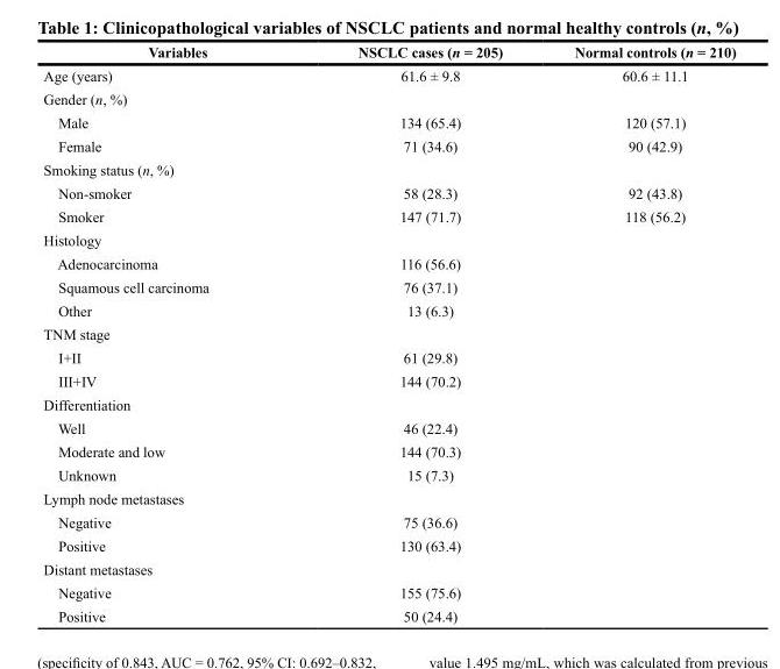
<table><thead><tr><td>Variables</td><td>NscLc cases (n = 205)</td><td>Normal controls (n = 210)</td></tr></thead><tbody><tr><td>Age (years)</td><td>61.6 ± 9.8</td><td>60.6 ± 11.1</td></tr><tr><td colspan="3">Gender (n, %)</td></tr><tr><td>Male</td><td>134 (65.4)</td><td>120 (57.1)</td></tr><tr><td>Female</td><td>71 (34.6)</td><td>90 (42.9)</td></tr><tr><td colspan="3">Smoking status (n, %)</td></tr><tr><td>Non-smoker</td><td>58 (28.3)</td><td>92 (43.8)</td></tr><tr><td>Smoker</td><td>147 (71.7)</td><td>118 (56.2)</td></tr><tr><td colspan="3">Histology</td></tr><tr><td>Adenocarcinoma</td><td>116 (56.6)</td><td></td></tr><tr><td>Squamous cell carcinoma</td><td>76 (37.1)</td><td></td></tr><tr><td>Other</td><td>13 (6.3)</td><td></td></tr><tr><td colspan="3">TNM stage</td></tr><tr><td>I+II</td><td>61 (29.8)</td><td></td></tr><tr><td>III+IV</td><td>144 (70.2)</td><td></td></tr><tr><td colspan="3">Differentiation</td></tr><tr><td>Well</td><td>46 (22.4)</td><td></td></tr><tr><td>Moderate and low</td><td>144 (70.3)</td><td></td></tr><tr><td>Unknown</td><td>15 (7.3)</td><td></td></tr><tr><td colspan="3">Lymph node metastases</td></tr><tr><td>Negative</td><td>75 (36.6)</td><td></td></tr><tr><td>Positive</td><td>130 (63.4)</td><td></td></tr><tr><td colspan="3">Distant metastases</td></tr><tr><td>Negative</td><td>155 (75.6)</td><td></td></tr><tr><td>Positive</td><td>50 (24.4)</td><td></td></tr></tbody></table>